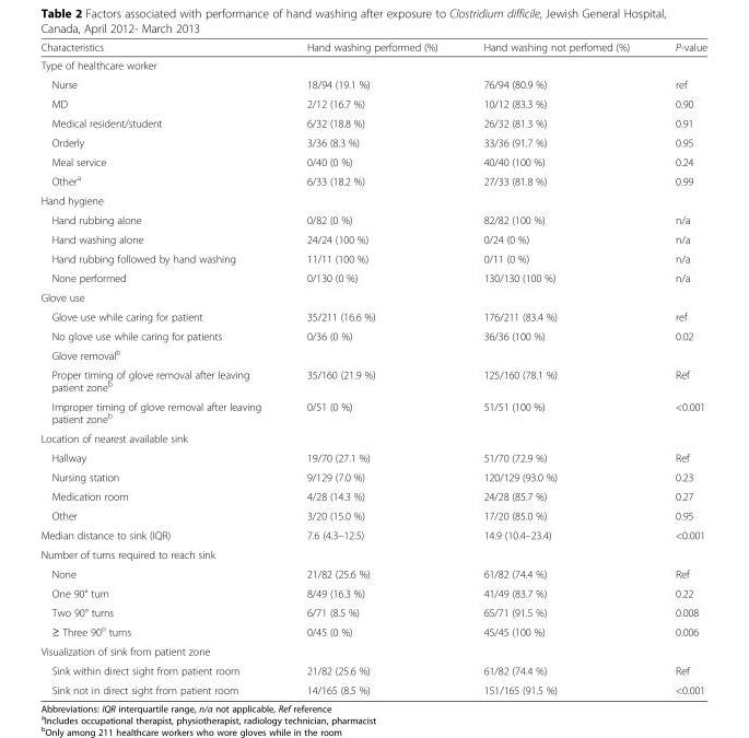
<table><thead><tr><td>Characteristics</td><td>Hand washing performed (%)</td><td>Hand washing not perfomed (%)</td><td>P-value</td></tr></thead><tbody><tr><td colspan="4">Type of healthcare worker</td></tr><tr><td>Nurse</td><td>18/94 (19.1 %)</td><td>76/94 (80.9 %)</td><td>ref</td></tr><tr><td>MD</td><td>2/12 (16.7 %)</td><td>10/12 (83.3 %)</td><td>0.90</td></tr><tr><td>Medical resident/student</td><td>6/32 (18.8 %)</td><td>26/32 (81.3 %)</td><td>0.91</td></tr><tr><td>Orderly</td><td>3/36 (8.3 %)</td><td>33/36 (91.7 %)</td><td>0.95</td></tr><tr><td>Meal service</td><td>0/40 (0 %)</td><td>40/40 (100 %)</td><td>0.24</td></tr><tr><td>Other<sup>a</sup></td><td>6/33 (18.2 %)</td><td>27/33 (81.8 %)</td><td>0.99</td></tr><tr><td colspan="4">Hand hygiene</td></tr><tr><td>Hand rubbing alone</td><td>0/82 (0 %)</td><td>82/82 (100 %)</td><td>n/a</td></tr><tr><td>Hand washing alone</td><td>24/24 (100 %)</td><td>0/24 (0 %)</td><td>n/a</td></tr><tr><td>Hand rubbing followed by hand washing</td><td>11/11 (100 %)</td><td>0/11 (0 %)</td><td>n/a</td></tr><tr><td>None performed</td><td>0/130 (0 %)</td><td>130/130 (100 %)</td><td>n/a</td></tr><tr><td colspan="4">Glove use</td></tr><tr><td>Glove use while caring for patient</td><td>35/211 (16.6 %)</td><td>176/211 (83.4 %)</td><td>ref</td></tr><tr><td>No glove use while caring for patients</td><td>0/36 (0 %)</td><td>36/36 (100 %)</td><td>0.02</td></tr><tr><td colspan="4">Glove removal<sup>b</sup></td></tr><tr><td>Proper timing of glove removal after leaving patient zone<sup>b</sup></td><td>35/160 (21.9 %)</td><td>125/160 (78.1 %)</td><td>Ref</td></tr><tr><td>Improper timing of glove removal after leaving patient zone<sup>b</sup></td><td>0/51 (0 %)</td><td>51/51 (100 %)</td><td>&lt;0.001</td></tr><tr><td colspan="4">Location of nearest available sink</td></tr><tr><td>Hallway</td><td>19/70 (27.1 %)</td><td>51/70 (72.9 %)</td><td>Ref</td></tr><tr><td>Nursing station</td><td>9/129 (7.0 %)</td><td>120/129 (93.0 %)</td><td>0.23</td></tr><tr><td>Medication room</td><td>4/28 (14.3 %)</td><td>24/28 (85.7 %)</td><td>0.27</td></tr><tr><td>Other</td><td>3/20 (15.0 %)</td><td>17/20 (85.0 %)</td><td>0.95</td></tr><tr><td>Median distance to sink (IQR)</td><td>7.6 (4.3–12.5)</td><td>14.9 (10.4–23.4)</td><td>&lt;0.001</td></tr><tr><td colspan="4">Number of turns required to reach sink</td></tr><tr><td>None</td><td>21/82 (25.6 %)</td><td>61/82 (74.4 %)</td><td>Ref</td></tr><tr><td>One 90° turn</td><td>8/49 (16.3 %)</td><td>41/49 (83.7 %)</td><td>0.22</td></tr><tr><td>Two 90° turns</td><td>6/71 (8.5 %)</td><td>65/71 (91.5 %)</td><td>0.008</td></tr><tr><td>≥ Three 90<sup>o</sup> turns</td><td>0/45 (0 %)</td><td>45/45 (100 %)</td><td>0.006</td></tr><tr><td colspan="4">Visualization of sink from patient zone</td></tr><tr><td>Sink within direct sight from patient room</td><td>21/82 (25.6 %)</td><td>61/82 (74.4 %)</td><td>Ref</td></tr><tr><td>Sink not in direct sight from patient room</td><td>14/165 (8.5 %)</td><td>151/165 (91.5 %)</td><td>&lt;0.001</td></tr></tbody></table>